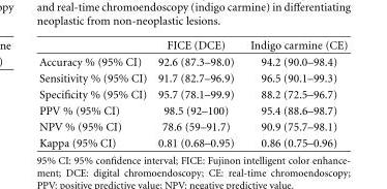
<table><thead><tr><td></td><td>FICE (DCE)</td><td>Indigo carmine (CE)</td></tr></thead><tbody><tr><td>Accuracy % (95% CI)</td><td>92.6 (87.3–98.0)</td><td>94.2 (90.0–98.4)</td></tr><tr><td>Sensitivity % (95% CI)</td><td>91.7 (82.7–96.9)</td><td>96.5 (90.1–99.3)</td></tr><tr><td>Specificity % (95% CI)</td><td>95.7 (78.1–99.9)</td><td>88.2 (72.5–96.7)</td></tr><tr><td>PPV % (95% CI)</td><td>98.5 (92–100)</td><td>95.4 (88.6–98.7)</td></tr><tr><td>NPV % (95% CI)</td><td>78.6 (59–91.7)</td><td>90.9 (75.7–98.1)</td></tr><tr><td>Kappa (95% CI)</td><td>0.81 (0.68–0.95)</td><td>0.86 (0.75–0.96)</td></tr></tbody></table>